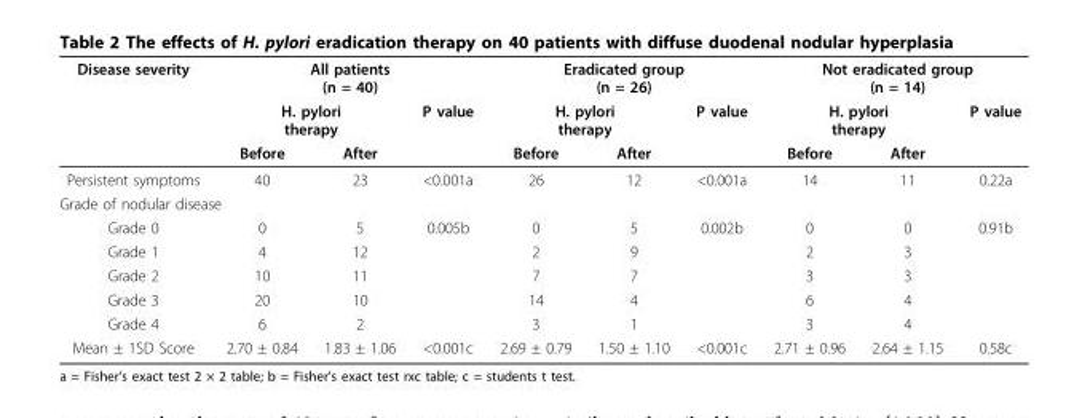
<table><thead><tr><td rowspan="3">Disease severity</td><td colspan="3">All patients (n = 40)</td><td colspan="3">Eradicated group (n = 26)</td><td colspan="3">Not eradicated group (n = 14)</td></tr><tr><td colspan="2">H. pylori therapy</td><td rowspan="2">P value</td><td colspan="2">H. pylori therapy</td><td rowspan="2">P value</td><td colspan="2">H. pylori therapy</td><td rowspan="2">P value</td></tr><tr><td>Before</td><td>After</td><td>Before</td><td>After</td><td>Before</td><td>After</td></tr></thead><tbody><tr><td>Persistent symptoms</td><td>40</td><td>23</td><td>&lt;0.001a</td><td>26</td><td>12</td><td>&lt;0.001a</td><td>14</td><td>11</td><td>0.22a</td></tr><tr><td colspan="10">Grade of nodular disease</td></tr><tr><td>Grade 0</td><td>0</td><td>5</td><td>0.005b</td><td>0</td><td>5</td><td>0.002b</td><td>0</td><td>0</td><td>0.91b</td></tr><tr><td>Grade 1</td><td>4</td><td>12</td><td></td><td>2</td><td>9</td><td></td><td>2</td><td>3</td><td></td></tr><tr><td>Grade 2</td><td>10</td><td>11</td><td></td><td>7</td><td>7</td><td></td><td>3</td><td>3</td><td></td></tr><tr><td>Grade 3</td><td>20</td><td>10</td><td></td><td>14</td><td>4</td><td></td><td>6</td><td>4</td><td></td></tr><tr><td>Grade 4</td><td>6</td><td>2</td><td></td><td>3</td><td>1</td><td></td><td>3</td><td>4</td><td></td></tr><tr><td>Mean ± 1SD Score</td><td>2.70 ± 0.84</td><td>1.83 ± 1.06</td><td>&lt;0.001c</td><td>2.69 ± 0.79</td><td>1.50 ± 1.10</td><td>&lt;0.001c</td><td>2.71 ± 0.96</td><td>2.64 ± 1.15</td><td>0.58c</td></tr></tbody></table>